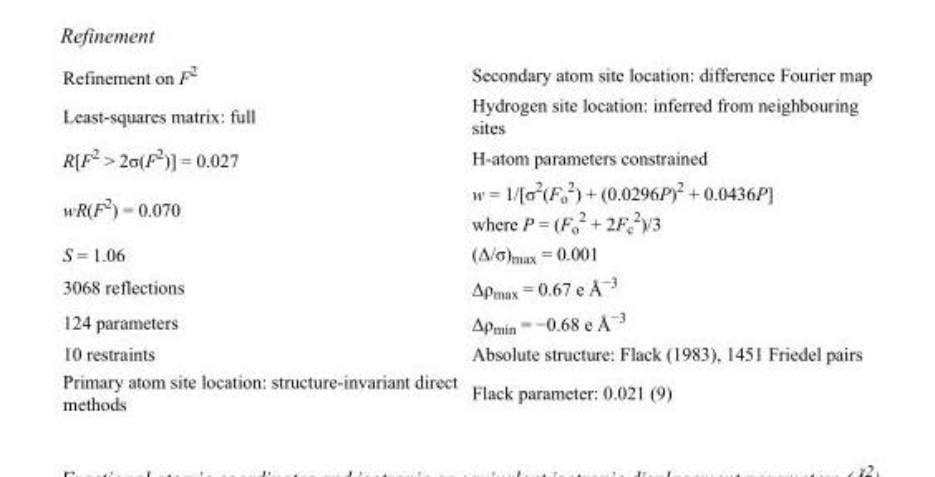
<table><tbody><tr><td>Refinement on F<sup>2</sup></td><td>Secondary atom site location: difference Fourier map</td></tr><tr><td>Least-squares matrix: full</td><td>Hydrogen site location: inferred from neighbouring sites</td></tr><tr><td>R[F<sup>2</sup> &gt; 2σ(F<sup>2</sup>)] = 0.027</td><td>H-atom parameters constrained</td></tr><tr><td>wR(F<sup>2</sup>) = 0.070</td><td>w = 1/[σ<sup>2</sup>(F<sub>o</sub> <sup>2</sup>) + (0.0296P)<sup>2</sup> + 0.0436P] where P = (F<sub>o</sub> <sup>2</sup> + 2F<sub>c</sub> <sup>2</sup>)/3</td></tr><tr><td>S = 1.06</td><td>(Δ/σ)<sub>max</sub> = 0.001</td></tr><tr><td>3068 reflections</td><td>Δρ<sub>max</sub> = 0.67 e Å<sup>−3</sup></td></tr><tr><td>124 parameters</td><td>Δρ<sub>min</sub> = −0.68 e Å<sup>−3</sup></td></tr><tr><td>10 restraints</td><td>Absolute structure: Flack (1983), 1451 Friedel pairs</td></tr><tr><td>Primary atom site location: structure-invariant direct methods</td><td>Flack parameter: 0.021 (9)</td></tr></tbody></table>